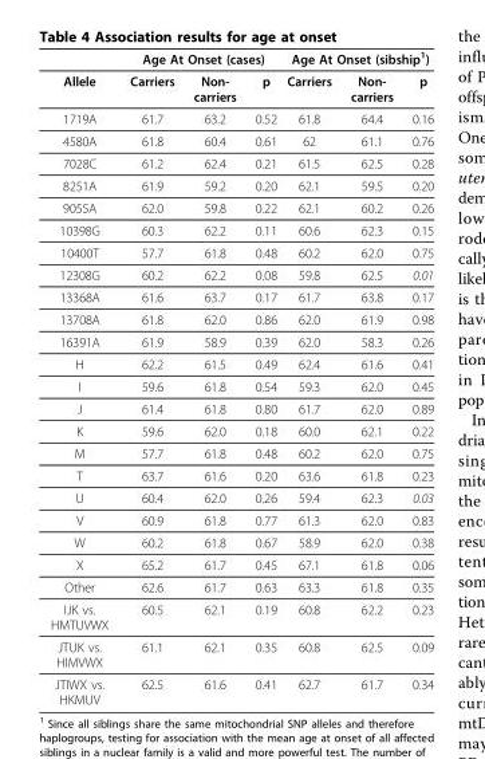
<table><thead><tr><td rowspan="2">Allele</td><td colspan="3">Age At Onset (cases)</td><td colspan="3">Age At Onset (sibship<sup>1</sup>)</td></tr><tr><td>Carriers</td><td>Non- carriers</td><td>p</td><td>Carriers</td><td>Non- carriers</td><td>p</td></tr></thead><tbody><tr><td>1719A</td><td>61.7</td><td>63.2</td><td>0.52</td><td>61.8</td><td>64.4</td><td>0.16</td></tr><tr><td>4580A</td><td>61.8</td><td>60.4</td><td>0.61</td><td>62</td><td>61.1</td><td>0.76</td></tr><tr><td>7028C</td><td>61.2</td><td>62.4</td><td>0.21</td><td>61.5</td><td>62.5</td><td>0.28</td></tr><tr><td>8251A</td><td>61.9</td><td>59.2</td><td>0.20</td><td>62.1</td><td>59.5</td><td>0.20</td></tr><tr><td>9055A</td><td>62.0</td><td>59.8</td><td>0.22</td><td>62.1</td><td>60.2</td><td>0.26</td></tr><tr><td>10398G</td><td>60.3</td><td>62.2</td><td>0.11</td><td>60.6</td><td>62.3</td><td>0.15</td></tr><tr><td>10400T</td><td>57.7</td><td>61.8</td><td>0.48</td><td>60.2</td><td>62.0</td><td>0.75</td></tr><tr><td>12308G</td><td>60.2</td><td>62.2</td><td>0.08</td><td>59.8</td><td>62.5</td><td>0.01</td></tr><tr><td>13368A</td><td>61.6</td><td>63.7</td><td>0.17</td><td>61.7</td><td>63.8</td><td>0.17</td></tr><tr><td>13708A</td><td>61.8</td><td>62.0</td><td>0.86</td><td>62.0</td><td>61.9</td><td>0.98</td></tr><tr><td>16391A</td><td>61.9</td><td>58.9</td><td>0.39</td><td>62.0</td><td>58.3</td><td>0.26</td></tr><tr><td>H</td><td>62.2</td><td>61.5</td><td>0.49</td><td>62.4</td><td>61.6</td><td>0.41</td></tr><tr><td>I</td><td>59.6</td><td>61.8</td><td>0.54</td><td>59.3</td><td>62.0</td><td>0.45</td></tr><tr><td>J</td><td>61.4</td><td>61.8</td><td>0.80</td><td>61.7</td><td>62.0</td><td>0.89</td></tr><tr><td>K</td><td>59.6</td><td>62.0</td><td>0.18</td><td>60.0</td><td>62.1</td><td>0.22</td></tr><tr><td>M</td><td>57.7</td><td>61.8</td><td>0.48</td><td>60.2</td><td>62.0</td><td>0.75</td></tr><tr><td>T</td><td>63.7</td><td>61.6</td><td>0.20</td><td>63.6</td><td>61.8</td><td>0.23</td></tr><tr><td>U</td><td>60.4</td><td>62.0</td><td>0.26</td><td>59.4</td><td>62.3</td><td>0.03</td></tr><tr><td>V</td><td>60.9</td><td>61.8</td><td>0.77</td><td>61.3</td><td>62.0</td><td>0.83</td></tr><tr><td>W</td><td>60.2</td><td>61.8</td><td>0.67</td><td>58.9</td><td>62.0</td><td>0.38</td></tr><tr><td>X</td><td>65.2</td><td>61.7</td><td>0.45</td><td>67.1</td><td>61.8</td><td>0.06</td></tr><tr><td>Other</td><td>62.6</td><td>61.7</td><td>0.63</td><td>63.3</td><td>61.8</td><td>0.35</td></tr><tr><td>IJK vs. HMTUVWX</td><td>60.5</td><td>62.1</td><td>0.19</td><td>60.8</td><td>62.2</td><td>0.23</td></tr><tr><td>JTUK vs. HIMVWX</td><td>61.1</td><td>62.1</td><td>0.35</td><td>60.8</td><td>62.5</td><td>0.09</td></tr><tr><td>JTIWX vs. HKMUV</td><td>62.5</td><td>61.6</td><td>0.41</td><td>62.7</td><td>61.7</td><td>0.34</td></tr></tbody></table>